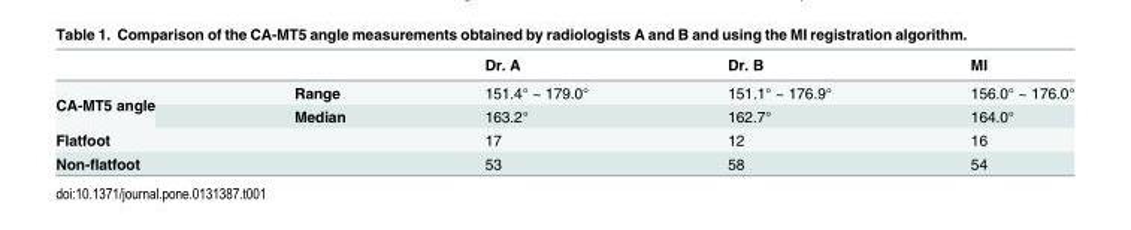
<table><thead><tr><td></td><td></td><td>Dr. A</td><td>Dr. B</td><td>MI</td></tr></thead><tbody><tr><td rowspan="2">CA-MT5 angle</td><td>Range</td><td>151.4° ~ 179.0°</td><td>151.1° ~ 176.9°</td><td>156.0° ~ 176.0°</td></tr><tr><td>Median</td><td>163.2°</td><td>162.7°</td><td>164.0°</td></tr><tr><td>Flatfoot</td><td></td><td>17</td><td>12</td><td>16</td></tr><tr><td>Non-flatfoot</td><td></td><td>53</td><td>58</td><td>54</td></tr></tbody></table>